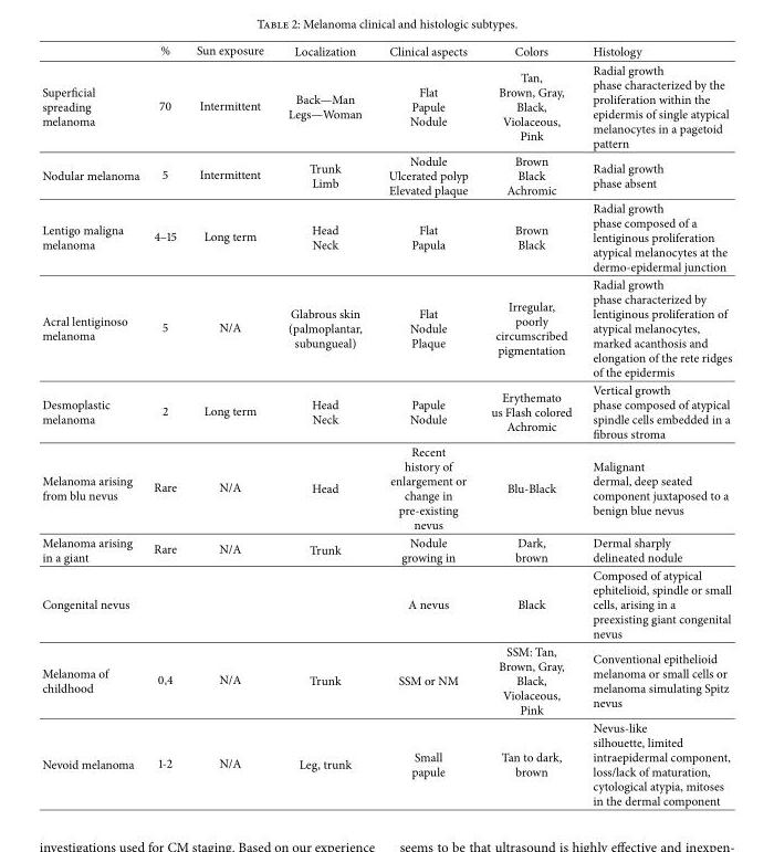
<table><thead><tr><td></td><td>%</td><td>Sun exposure</td><td>Localization</td><td>Clinical aspects</td><td>Colors</td><td>Histology</td></tr></thead><tbody><tr><td>Superficial spreading melanoma</td><td>70</td><td>Intermittent</td><td>Back—Man Legs—Woman</td><td>Flat Papule Nodule</td><td>Tan, Brown, Gray, Black, Violaceous, Pink</td><td>Radial growth phase characterized by the proliferation within the epidermis of single atypical melanocytes in a pagetoid pattern</td></tr><tr><td>Nodular melanoma</td><td>5</td><td>Intermittent</td><td>Trunk Limb</td><td>Nodule Ulcerated polyp Elevated plaque</td><td>Brown Black Achromic</td><td>Radial growth phase absent</td></tr><tr><td>Lentigo maligna melanoma</td><td>4–15</td><td>Long term</td><td>Head Neck</td><td>Flat Papula</td><td>Brown Black</td><td>Radial growth phase composed of a lentiginous proliferation atypical melanocytes at the dermo-epidermal junction</td></tr><tr><td>Acral lentiginoso melanoma</td><td>5</td><td>N/A</td><td>Glabrous skin (palmoplantar, subungueal)</td><td>Flat Nodule Plaque</td><td>Irregular, poorly circumscribed pigmentation</td><td>Radial growth phase characterized by lentiginous proliferation of atypical melanocytes, marked acanthosis and elongation of the rete ridges of the epidermis</td></tr><tr><td>Desmoplastic melanoma</td><td>2</td><td>Long term</td><td>Head Neck</td><td>Papule Nodule</td><td>Erythemato us Flash colored Achromic</td><td>Vertical growth phase composed of atypical spindle cells embedded in a fibrous stroma</td></tr><tr><td>Melanoma arising from blu nevus</td><td>Rare</td><td>N/A</td><td>Head</td><td>Recent history of enlargement or change in pre-existing nevus</td><td>Blu-Black</td><td>Malignant dermal, deep seated component juxtaposed to a benign blue nevus</td></tr><tr><td>Melanoma arising in a giant</td><td>Rare</td><td>N/A</td><td>Trunk</td><td>Nodule growing in</td><td>Dark, brown</td><td>Dermal sharply delineated nodule</td></tr><tr><td>Congenital nevus</td><td></td><td></td><td></td><td>A nevus</td><td>Black</td><td>Composed of atypical ephitelioid, spindle or small cells, arising in a preexisting giant congenital nevus</td></tr><tr><td>Melanoma of childhood</td><td>0,4</td><td>N/A</td><td>Trunk</td><td>SSM or NM</td><td>SSM: Tan, Brown, Gray, Black, Violaceous, Pink</td><td>Conventional epithelioid melanoma or small cells or melanoma simulating Spitz nevus</td></tr><tr><td>Nevoid melanoma</td><td>1-2</td><td>N/A</td><td>Leg, trunk</td><td>Small papule</td><td>Tan to dark, brown</td><td>Nevus-like silhouette, limited intraepidermal component, loss/lack of maturation, cytological atypia, mitoses in the dermal component</td></tr></tbody></table>